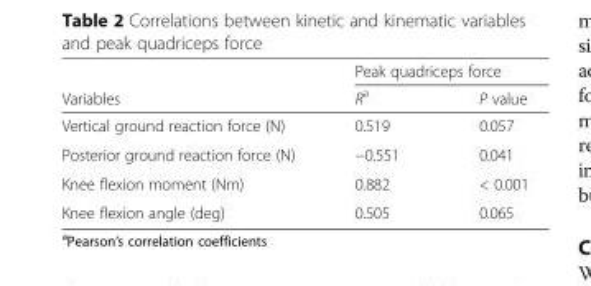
<table><thead><tr><td rowspan="2">Variables</td><td colspan="2">Peak quadriceps force</td></tr><tr><td>R<sup>a</sup></td><td>P value</td></tr></thead><tbody><tr><td>Vertical ground reaction force (N)</td><td>0.519</td><td>0.057</td></tr><tr><td>Posterior ground reaction force (N)</td><td>−0.551</td><td>0.041</td></tr><tr><td>Knee flexion moment (Nm)</td><td>0.882</td><td>&lt; 0.001</td></tr><tr><td>Knee flexion angle (deg)</td><td>0.505</td><td>0.065</td></tr></tbody></table>